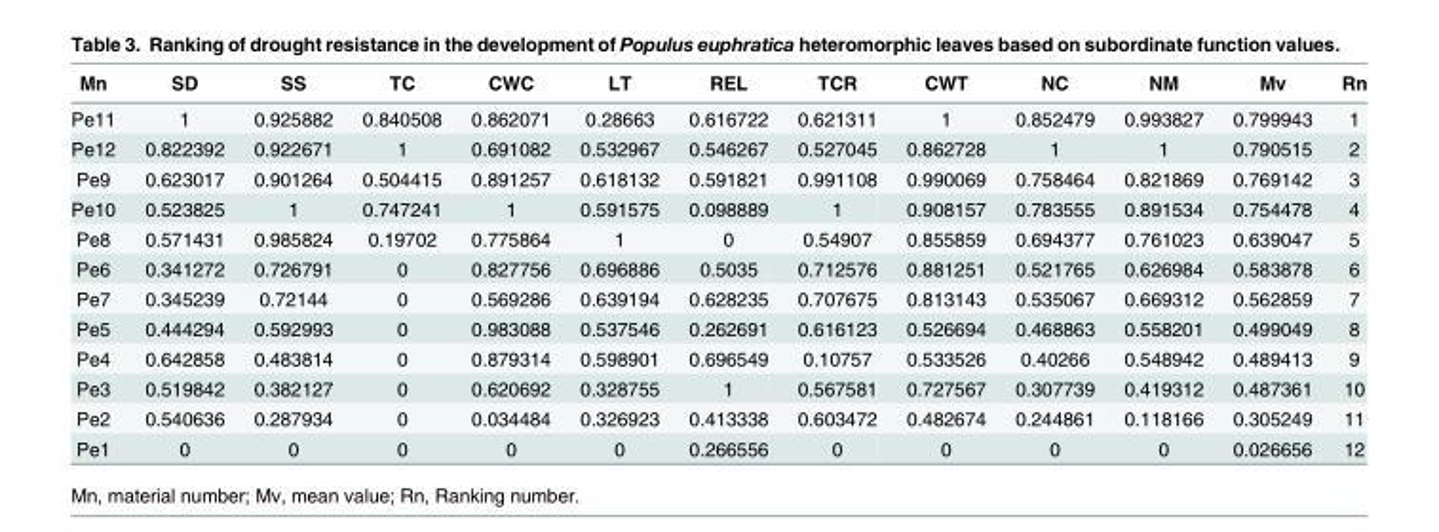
<table><thead><tr><td>Mn</td><td>SD</td><td>SS</td><td>TC</td><td>CWC</td><td>LT</td><td>REL</td><td>TCR</td><td>CWT</td><td>NC</td><td>NM</td><td>Mv</td><td>Rn</td></tr></thead><tbody><tr><td>Pe11</td><td>1</td><td>0.925882</td><td>0.840508</td><td>0.862071</td><td>0.28663</td><td>0.616722</td><td>0.621311</td><td>1</td><td>0.852479</td><td>0.993827</td><td>0.799943</td><td>1</td></tr><tr><td>Pe12</td><td>0.822392</td><td>0.922671</td><td>1</td><td>0.691082</td><td>0.532967</td><td>0.546267</td><td>0.527045</td><td>0.862728</td><td>1</td><td>1</td><td>0.790515</td><td>2</td></tr><tr><td>Pe9</td><td>0.623017</td><td>0.901264</td><td>0.504415</td><td>0.891257</td><td>0.618132</td><td>0.591821</td><td>0.991108</td><td>0.990069</td><td>0.758464</td><td>0.821869</td><td>0.769142</td><td>3</td></tr><tr><td>Pe10</td><td>0.523825</td><td>1</td><td>0.747241</td><td>1</td><td>0.591575</td><td>0.098889</td><td>1</td><td>0.908157</td><td>0.783555</td><td>0.891534</td><td>0.754478</td><td>4</td></tr><tr><td>Pe8</td><td>0.571431</td><td>0.985824</td><td>0.19702</td><td>0.775864</td><td>1</td><td>0</td><td>0.54907</td><td>0.855859</td><td>0.694377</td><td>0.761023</td><td>0.639047</td><td>5</td></tr><tr><td>Pe6</td><td>0.341272</td><td>0.726791</td><td>0</td><td>0.827756</td><td>0.696886</td><td>0.5035</td><td>0.712576</td><td>0.881251</td><td>0.521765</td><td>0.626984</td><td>0.583878</td><td>6</td></tr><tr><td>Pe7</td><td>0.345239</td><td>0.72144</td><td>0</td><td>0.569286</td><td>0.639194</td><td>0.628235</td><td>0.707675</td><td>0.813143</td><td>0.535067</td><td>0.669312</td><td>0.562859</td><td>7</td></tr><tr><td>Pe5</td><td>0.444294</td><td>0.592993</td><td>0</td><td>0.983088</td><td>0.537546</td><td>0.262691</td><td>0.616123</td><td>0.526694</td><td>0.468863</td><td>0.558201</td><td>0.499049</td><td>8</td></tr><tr><td>Pe4</td><td>0.642858</td><td>0.483814</td><td>0</td><td>0.879314</td><td>0.598901</td><td>0.696549</td><td>0.10757</td><td>0.533526</td><td>0.40266</td><td>0.548942</td><td>0.489413</td><td>9</td></tr><tr><td>Pe3</td><td>0.519842</td><td>0.382127</td><td>0</td><td>0.620692</td><td>0.328755</td><td>1</td><td>0.567581</td><td>0.727567</td><td>0.307739</td><td>0.419312</td><td>0.487361</td><td>10</td></tr><tr><td>Pe2</td><td>0.540636</td><td>0.287934</td><td>0</td><td>0.034484</td><td>0.326923</td><td>0.413338</td><td>0.603472</td><td>0.482674</td><td>0.244861</td><td>0.118166</td><td>0.305249</td><td>11</td></tr><tr><td>Pe1</td><td>0</td><td>0</td><td>0</td><td>0</td><td>0</td><td>0.266556</td><td>0</td><td>0</td><td>0</td><td>0</td><td>0.026656</td><td>12</td></tr></tbody></table>